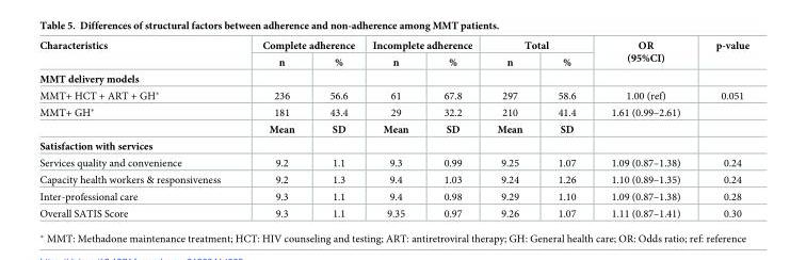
<table><thead><tr><td rowspan="2">Characteristics</td><td colspan="2">Complete adherence</td><td colspan="2">Incomplete adherence</td><td colspan="2">Total</td><td rowspan="2">OR (95%CI)</td><td rowspan="2">p-value</td></tr><tr><td>n</td><td>%</td><td>n</td><td>%</td><td>n</td><td>%</td></tr></thead><tbody><tr><td colspan="9">MMT delivery models</td></tr><tr><td>MMT+ HCT + ART + GH*</td><td>236</td><td>56.6</td><td>61</td><td>67.8</td><td>297</td><td>58.6</td><td>1.00 (ref)</td><td>0.051</td></tr><tr><td rowspan="2">MMT+ GH*</td><td>181</td><td>43.4</td><td>29</td><td>32.2</td><td>210</td><td>41.4</td><td>1.61 (0.99–2.61)</td><td></td></tr><tr><td>Mean</td><td>SD</td><td>Mean</td><td>SD</td><td>Mean</td><td>SD</td><td></td><td></td></tr><tr><td colspan="9">Satisfaction with services</td></tr><tr><td>Services quality and convenience</td><td>9.2</td><td>1.1</td><td>9.3</td><td>0.99</td><td>9.25</td><td>1.07</td><td>1.09 (0.87–1.38)</td><td>0.24</td></tr><tr><td>Capacity health workers &amp; responsiveness</td><td>9.2</td><td>1.3</td><td>9.4</td><td>1.03</td><td>9.24</td><td>1.26</td><td>1.10 (0.89–1.35)</td><td>0.24</td></tr><tr><td>Inter-professional care</td><td>9.3</td><td>1.1</td><td>9.4</td><td>0.98</td><td>9.29</td><td>1.10</td><td>1.09 (0.87–1.38)</td><td>0.28</td></tr><tr><td>Overall SATIS Score</td><td>9.3</td><td>1.1</td><td>9.35</td><td>0.97</td><td>9.26</td><td>1.07</td><td>1.11 (0.87–1.41)</td><td>0.30</td></tr></tbody></table>